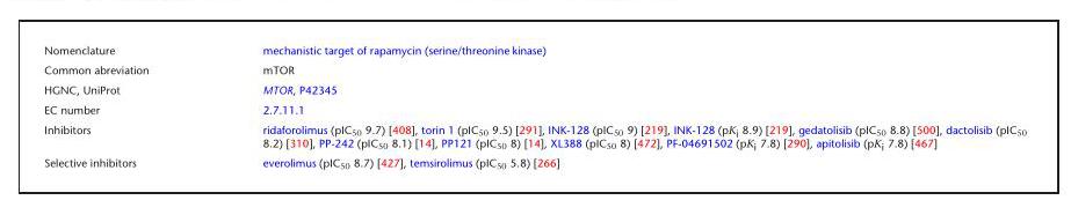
<table><tbody><tr><td>Nomenclature</td><td>mechanistic target of rapamycin (serine/threonine kinase)</td></tr><tr><td>Common abreviation</td><td>mTOR</td></tr><tr><td>HGNC, UniProt</td><td>MTOR, P42345</td></tr><tr><td>EC number</td><td>2.7.11.1</td></tr><tr><td>Inhibitors</td><td>ridaforolimus (pIC<sub>50</sub> 9.7) [408], torin 1 (pIC<sub>50</sub> 9.5) [291], INK-128 (pIC<sub>50</sub> 9) [219], INK-128 (pK<sub>i</sub> 8.9) [219], gedatolisib (pIC<sub>50</sub> 8.8) [500], dactolisib (pIC<sub>50</sub> 8.2) [310], PP-242 (pIC<sub>50</sub> 8.1) [14], PP121 (pIC<sub>50</sub> 8) [14], XL388 (pIC<sub>50</sub> 8) [472], PF-04691502 (pK<sub>i</sub> 7.8) [290], apitolisib (pK<sub>i</sub> 7.8) [467]</td></tr><tr><td>Selective inhibitors</td><td>everolimus (pIC<sub>50</sub> 8.7) [427], temsirolimus (pIC<sub>50</sub> 5.8) [266]</td></tr></tbody></table>